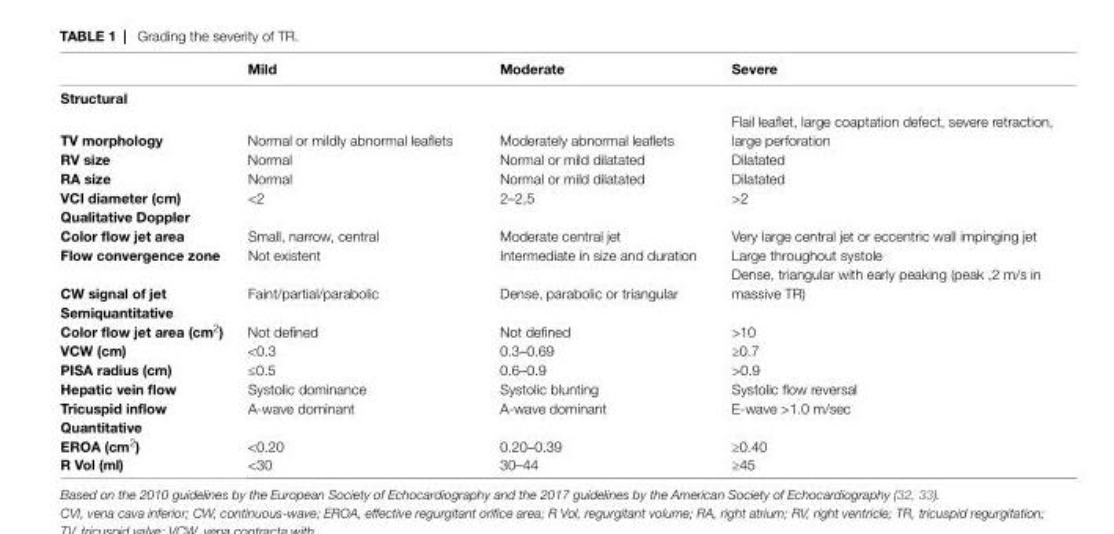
<table><thead><tr><td></td><td>Mild</td><td>Moderate</td><td>severe</td></tr></thead><tbody><tr><td colspan="4">structural</td></tr><tr><td>Tv morphology</td><td>Normal or mildly abnormal leaflets</td><td>Moderately abnormal leaflets</td><td>Flail leaflet, large coaptation defect, severe retraction, large perforation</td></tr><tr><td>Rv size</td><td>Normal</td><td>Normal or mild dilatated</td><td>Dilatated</td></tr><tr><td>RA size</td><td>Normal</td><td>Normal or mild dilatated</td><td>Dilatated</td></tr><tr><td>vCi diameter (cm)</td><td>&lt;2</td><td>2–2,5</td><td>&gt;2</td></tr><tr><td colspan="4">Qualitative Doppler</td></tr><tr><td>Color flow jet area</td><td>Small, narrow, central</td><td>Moderate central jet</td><td>Very large central jet or eccentric wall impinging jet</td></tr><tr><td>Flow convergence zone</td><td>Not existent</td><td>Intermediate in size and duration</td><td>Large throughout systole</td></tr><tr><td>Cw signal of jet</td><td>Faint/partial/parabolic</td><td>Dense, parabolic or triangular</td><td>Dense, triangular with early peaking (peak ,2 m/s in massive TR)</td></tr><tr><td colspan="4">semiquantitative</td></tr><tr><td>Color flow jet area (cm<sup>2</sup>)</td><td>Not defined</td><td>Not defined</td><td>&gt;10</td></tr><tr><td>vCw (cm)</td><td>&lt;0.3</td><td>0.3–0.69</td><td>≥0.7</td></tr><tr><td>pisA radius (cm)</td><td>≤0.5</td><td>0.6–0.9</td><td>&gt;0.9</td></tr><tr><td>Hepatic vein flow</td><td>Systolic dominance</td><td>Systolic blunting</td><td>Systolic flow reversal</td></tr><tr><td>Tricuspid inflow</td><td>A-wave dominant</td><td>A-wave dominant</td><td>E-wave &gt;1.0 m/sec</td></tr><tr><td colspan="4">Quantitative</td></tr><tr><td>eROA (cm<sup>2</sup>)</td><td>&lt;0.20</td><td>0.20–0.39</td><td>≥0.40</td></tr><tr><td>R vol (ml)</td><td>&lt;30</td><td>30–44</td><td>≥45</td></tr></tbody></table>